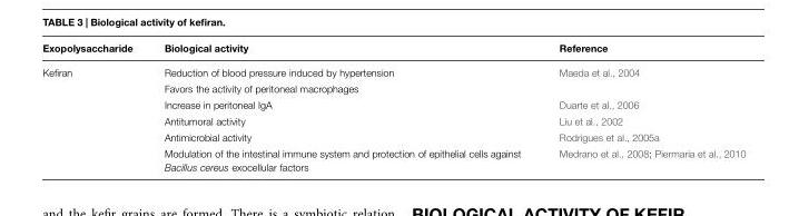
<table><thead><tr><td>Exopolysaccharide</td><td>Biological activity</td><td>Reference</td></tr></thead><tbody><tr><td rowspan="6">Kefiran</td><td>Reduction of blood pressure induced by hypertension</td><td>Maeda et al., 2004</td></tr><tr><td>Favors the activity of peritoneal macrophages</td><td></td></tr><tr><td>Increase in peritoneal IgA</td><td>Duarte et al., 2006</td></tr><tr><td>Antitumoral activity</td><td>Liu et al., 2002</td></tr><tr><td>Antimicrobial activity</td><td>Rodrigues et al., 2005a</td></tr><tr><td>Modulation of the intestinal immune system and protection of epithelial cells against Bacillus cereus exocellular factors</td><td>Medrano et al., 2008; Piermaria et al., 2010</td></tr></tbody></table>